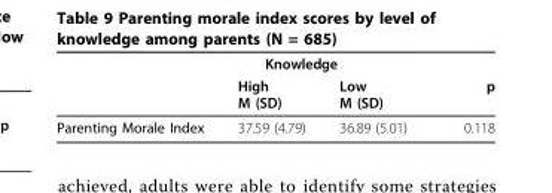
<table><thead><tr><td rowspan="2"></td><td colspan="2">Knowledge</td><td rowspan="2">p</td></tr><tr><td>High M (SD)</td><td>Low M (SD)</td></tr></thead><tbody><tr><td>Parenting Morale Index</td><td>37.59 (4.79)</td><td>36.89 (5.01)</td><td>0.118</td></tr></tbody></table>